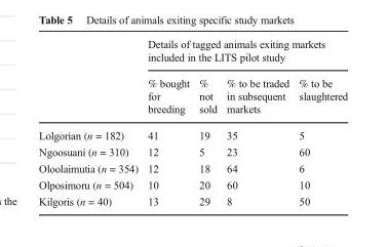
<table><thead><tr><td rowspan="2"></td><td colspan="4">Details of tagged animals exiting markets included in the LITS pilot study</td></tr><tr><td>% bought for breeding</td><td>% not sold</td><td>% to be traded in subsequent markets</td><td>% to be slaughtered</td></tr></thead><tbody><tr><td>Lolgorian (n = 182)</td><td>41</td><td>19</td><td>35</td><td>5</td></tr><tr><td>Ngoosuani (n = 310)</td><td>12</td><td>5</td><td>23</td><td>60</td></tr><tr><td>Oloolaimutia (n = 354)</td><td>12</td><td>18</td><td>64</td><td>6</td></tr><tr><td>Olposimoru (n = 504)</td><td>10</td><td>20</td><td>60</td><td>10</td></tr><tr><td>Kilgoris (n = 40)</td><td>13</td><td>29</td><td>8</td><td>50</td></tr></tbody></table>